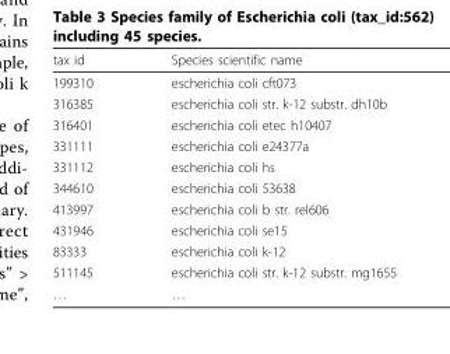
<table><thead><tr><td>tax id</td><td>Species scientific name</td></tr></thead><tbody><tr><td>199310</td><td>escherichia coli cft073</td></tr><tr><td>316385</td><td>escherichia coli str. k-12 substr. dh10b</td></tr><tr><td>316401</td><td>escherichia coli etec h10407</td></tr><tr><td>331111</td><td>escherichia coli e24377a</td></tr><tr><td>331112</td><td>escherichia coli hs</td></tr><tr><td>344610</td><td>escherichia coli 53638</td></tr><tr><td>413997</td><td>escherichia coli b str. rel606</td></tr><tr><td>431946</td><td>escherichia coli se15</td></tr><tr><td>83333</td><td>escherichia coli k-12</td></tr><tr><td>511145</td><td>escherichia coli str. k-12 substr. mg1655</td></tr><tr><td>…</td><td>…</td></tr></tbody></table>